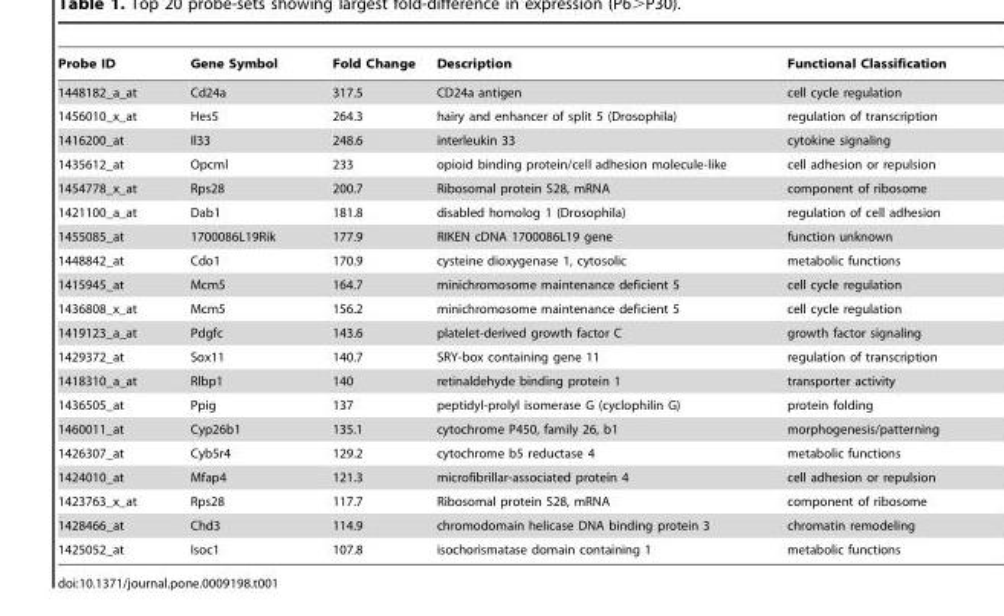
<table><thead><tr><td>Probe ID</td><td>Gene Symbol</td><td>Fold Change</td><td>Description</td><td>Functional Classification</td></tr></thead><tbody><tr><td>1448182_a_at</td><td>Cd24a</td><td>317.5</td><td>CD24a antigen</td><td>cell cycle regulation</td></tr><tr><td>1456010_x_at</td><td>Hes5</td><td>264.3</td><td>hairy and enhancer of split 5 (Drosophila)</td><td>regulation of transcription</td></tr><tr><td>1416200_at</td><td>Il33</td><td>248.6</td><td>interleukin 33</td><td>cytokine signaling</td></tr><tr><td>1435612_at</td><td>Opcml</td><td>233</td><td>opioid binding protein/cell adhesion molecule-like</td><td>cell adhesion or repulsion</td></tr><tr><td>1454778_x_at</td><td>Rps28</td><td>200.7</td><td>Ribosomal protein S28, mRNA</td><td>component of ribosome</td></tr><tr><td>1421100_a_at</td><td>Dab1</td><td>181.8</td><td>disabled homolog 1 (Drosophila)</td><td>regulation of cell adhesion</td></tr><tr><td>1455085_at</td><td>1700086L19Rik</td><td>177.9</td><td>RIKEN cDNA 1700086L19 gene</td><td>function unknown</td></tr><tr><td>1448842_at</td><td>Cdo1</td><td>170.9</td><td>cysteine dioxygenase 1, cytosolic</td><td>metabolic functions</td></tr><tr><td>1415945_at</td><td>Mcm5</td><td>164.7</td><td>minichromosome maintenance deficient 5</td><td>cell cycle regulation</td></tr><tr><td>1436808_x_at</td><td>Mcm5</td><td>156.2</td><td>minichromosome maintenance deficient 5</td><td>cell cycle regulation</td></tr><tr><td>1419123_a_at</td><td>Pdgfc</td><td>143.6</td><td>platelet-derived growth factor C</td><td>growth factor signaling</td></tr><tr><td>1429372_at</td><td>Sox11</td><td>140.7</td><td>SRY-box containing gene 11</td><td>regulation of transcription</td></tr><tr><td>1418310_a_at</td><td>Rlbp1</td><td>140</td><td>retinaldehyde binding protein 1</td><td>transporter activity</td></tr><tr><td>1436505_at</td><td>Ppig</td><td>137</td><td>peptidyl-prolyl isomerase G (cyclophilin G)</td><td>protein folding</td></tr><tr><td>1460011_at</td><td>Cyp26b1</td><td>135.1</td><td>cytochrome P450, family 26, b1</td><td>morphogenesis/patterning</td></tr><tr><td>1426307_at</td><td>Cyb5r4</td><td>129.2</td><td>cytochrome b5 reductase 4</td><td>metabolic functions</td></tr><tr><td>1424010_at</td><td>Mfap4</td><td>121.3</td><td>microfibrillar-associated protein 4</td><td>cell adhesion or repulsion</td></tr><tr><td>1423763_x_at</td><td>Rps28</td><td>117.7</td><td>Ribosomal protein S28, mRNA</td><td>component of ribosome</td></tr><tr><td>1428466_at</td><td>Chd3</td><td>114.9</td><td>chromodomain helicase DNA binding protein 3</td><td>chromatin remodeling</td></tr><tr><td>1425052_at</td><td>Isoc1</td><td>107.8</td><td>isochorismatase domain containing 1</td><td>metabolic functions</td></tr></tbody></table>